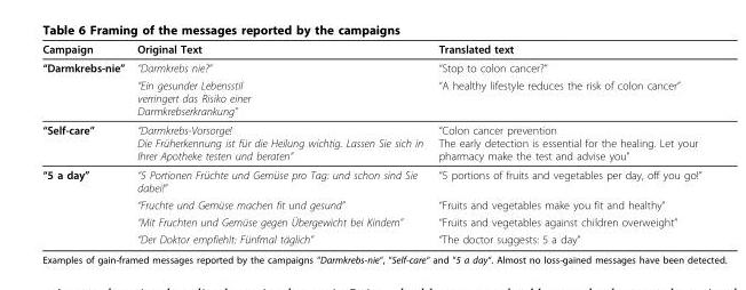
<table><thead><tr><td>Campaign</td><td>Original Text</td><td>Translated text</td></tr></thead><tbody><tr><td rowspan="2">“Darmkrebs-nie”</td><td>“Darmkrebs nie?”</td><td>“Stop to colon cancer?”</td></tr><tr><td>“Ein gesunder Lebensstil verringert das Risiko einer Darmkrebserkrankung”</td><td>“A healthy lifestyle reduces the risk of colon cancer”</td></tr><tr><td>“Self-care”</td><td>“Darmkrebs-Vorsorge! Die Früherkennung ist für die Heilung wichtig. Lassen Sie sich in Ihrer Apotheke testen und beraten”</td><td>“Colon cancer prevention The early detection is essential for the healing. Let your pharmacy make the test and advise you”</td></tr><tr><td rowspan="4">“5 a day”</td><td>“5 Portionen Früchte und Gemüse pro Tag: und schon sind Sie dabei!”</td><td>“5 portions of fruits and vegetables per day, off you go!”</td></tr><tr><td>“Fruchte und Gemüse machen fit und gesund”</td><td>“Fruits and vegetables make you fit and healthy”</td></tr><tr><td>“Mit Fruchten und Gemüse gegen Übergewicht bei Kindern”</td><td>“Fruits and vegetables against children overweight”</td></tr><tr><td>“Der Doktor empfiehlt: Fünfmal täglich”</td><td>“The doctor suggests: 5 a day”</td></tr></tbody></table>